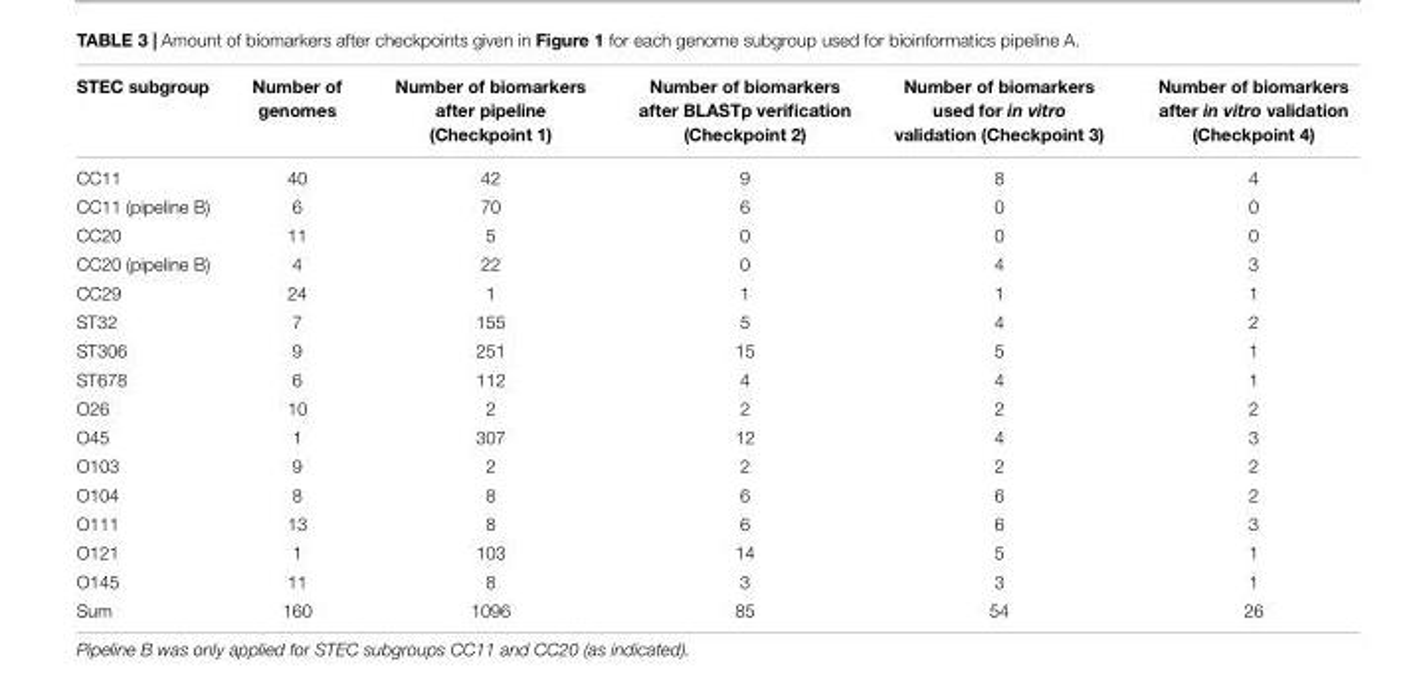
<table><thead><tr><td>STEC subgroup</td><td>Number of genomes</td><td>Number of biomarkers after pipeline (Checkpoint 1)</td><td>Number of biomarkers after BLASTp verification (Checkpoint 2)</td><td>Number of biomarkers used for in vitro validation (Checkpoint 3)</td><td>Number of biomarkers after in vitro validation (Checkpoint 4)</td></tr></thead><tbody><tr><td>CC11</td><td>40</td><td>42</td><td>9</td><td>8</td><td>4</td></tr><tr><td>CC11 (pipeline B)</td><td>6</td><td>70</td><td>6</td><td>0</td><td>0</td></tr><tr><td>CC20</td><td>11</td><td>5</td><td>0</td><td>0</td><td>0</td></tr><tr><td>CC20 (pipeline B)</td><td>4</td><td>22</td><td>0</td><td>4</td><td>3</td></tr><tr><td>CC29</td><td>24</td><td>1</td><td>1</td><td>1</td><td>1</td></tr><tr><td>ST32</td><td>7</td><td>155</td><td>5</td><td>4</td><td>2</td></tr><tr><td>ST306</td><td>9</td><td>251</td><td>15</td><td>5</td><td>1</td></tr><tr><td>ST678</td><td>6</td><td>112</td><td>4</td><td>4</td><td>1</td></tr><tr><td>O26</td><td>10</td><td>2</td><td>2</td><td>2</td><td>2</td></tr><tr><td>O45</td><td>1</td><td>307</td><td>12</td><td>4</td><td>3</td></tr><tr><td>O103</td><td>9</td><td>2</td><td>2</td><td>2</td><td>2</td></tr><tr><td>O104</td><td>8</td><td>8</td><td>6</td><td>6</td><td>2</td></tr><tr><td>O111</td><td>13</td><td>8</td><td>6</td><td>6</td><td>3</td></tr><tr><td>O121</td><td>1</td><td>103</td><td>14</td><td>5</td><td>1</td></tr><tr><td>O145</td><td>11</td><td>8</td><td>3</td><td>3</td><td>1</td></tr><tr><td>Sum</td><td>160</td><td>1096</td><td>85</td><td>54</td><td>26</td></tr></tbody></table>